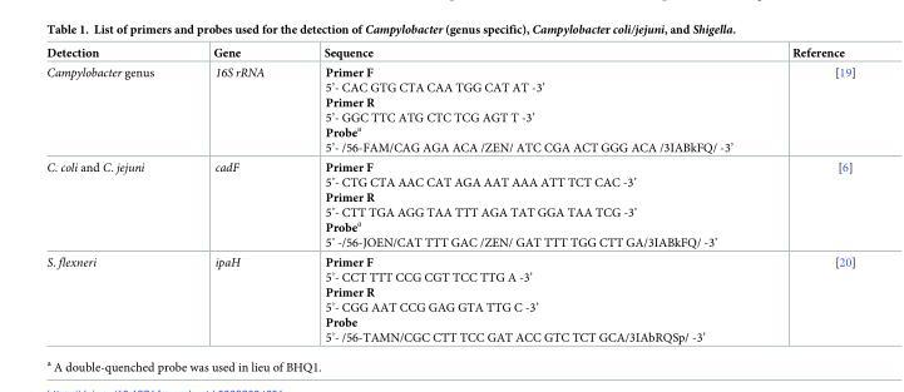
<table><thead><tr><td>Detection</td><td>Gene</td><td>Sequence</td><td>Reference</td></tr></thead><tbody><tr><td>Campylobacter genus</td><td>16S rRNA</td><td>Primer F 5’- CAC GTG CTA CAA TGG CAT AT -3’ Primer R 5’- GGC TTC ATG CTC TCG AGT T -3’ Probe<sup>a</sup> 5’- /56-FAM/CAG AGA ACA /ZEN/ ATC CGA ACT GGG ACA /3IABkFQ/ -3’</td><td>[19]</td></tr><tr><td>C. coli and C. jejuni</td><td>cadF</td><td>Primer F 5’- CTG CTA AAC CAT AGA AAT AAA ATT TCT CAC -3’ Primer R 5’- CTT TGA AGG TAA TTT AGA TAT GGA TAA TCG -3’ Probe<sup>a</sup> 5’ -/56-JOEN/CAT TTT GAC /ZEN/ GAT TTT TGG CTT GA/3IABkFQ/ -3’</td><td>[6]</td></tr><tr><td>S. flexneri</td><td>ipaH</td><td>Primer F 5’- CCT TTT CCG CGT TCC TTG A -3’ Primer R 5’- CGG AAT CCG GAG GTA TTG C -3’ Probe 5’- /56-TAMN/CGC CTT TCC GAT ACC GTC TCT GCA/3IAbRQSp/ -3’</td><td>[20]</td></tr></tbody></table>